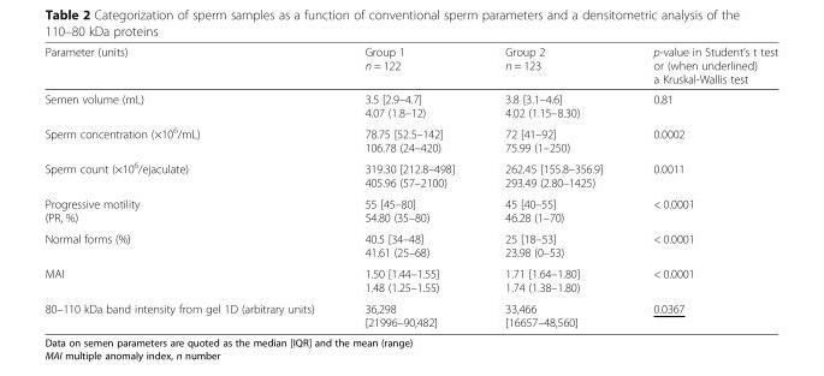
<table><thead><tr><td>Parameter (units)</td><td>Group 1 n = 122</td><td>Group 2 n = 123</td><td>p-value in Student’s t test or (when underlined) a Kruskal-Wallis test</td></tr></thead><tbody><tr><td>Semen volume (mL)</td><td>3.5 [2.9–4.7] 4.07 (1.8–12)</td><td>3.8 [3.1–4.6] 4.02 (1.15–8.30)</td><td>0.81</td></tr><tr><td>Sperm concentration (×10<sup>6</sup>/mL)</td><td>78.75 [52.5–142] 106.78 (24–420)</td><td>72 [41–92] 75.99 (1–250)</td><td>0.0002</td></tr><tr><td>Sperm count (×10<sup>6</sup>/ejaculate)</td><td>319.30 [212.8–498] 405.96 (57–2100)</td><td>262.45 [155.8–356.9] 293.49 (2.80–1425)</td><td>0.0011</td></tr><tr><td>Progressive motility (PR, %)</td><td>55 [45–80] 54.80 (35–80)</td><td>45 [40–55] 46.28 (1–70)</td><td>&lt; 0.0001</td></tr><tr><td>Normal forms (%)</td><td>40.5 [34–48] 41.61 (25–68)</td><td>25 [18–53] 23.98 (0–53)</td><td>&lt; 0.0001</td></tr><tr><td>MAI</td><td>1.50 [1.44–1.55] 1.48 (1.25–1.55)</td><td>1.71 [1.64–1.80] 1.74 (1.38–1.80)</td><td>&lt; 0.0001</td></tr><tr><td>80–110 kDa band intensity from gel 1D (arbitrary units)</td><td>36,298 [21996–90,482]</td><td>33,466 [16657–48,560]</td><td>0.0367</td></tr></tbody></table>